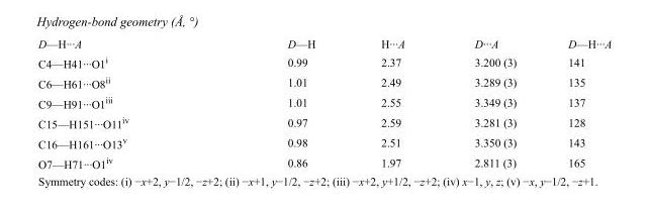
<table><tbody><tr><td>D—H···A</td><td>D—H</td><td>H···A</td><td>D···A</td><td>D—H···A</td></tr><tr><td>C4—H41···O1<sup>i</sup></td><td>0.99</td><td>2.37</td><td>3.200 (3)</td><td>141</td></tr><tr><td>C6—H61···O8<sup>ii</sup></td><td>1.01</td><td>2.49</td><td>3.289 (3)</td><td>135</td></tr><tr><td>C9—H91···O1<sup>iii</sup></td><td>1.01</td><td>2.55</td><td>3.349 (3)</td><td>137</td></tr><tr><td>C15—H151···O11<sup>iv</sup></td><td>0.97</td><td>2.59</td><td>3.281 (3)</td><td>128</td></tr><tr><td>C16—H161···O13<sup>v</sup></td><td>0.98</td><td>2.51</td><td>3.350 (3)</td><td>143</td></tr><tr><td>O7—H71···O1<sup>iv</sup></td><td>0.86</td><td>1.97</td><td>2.811 (3)</td><td>165</td></tr></tbody></table>